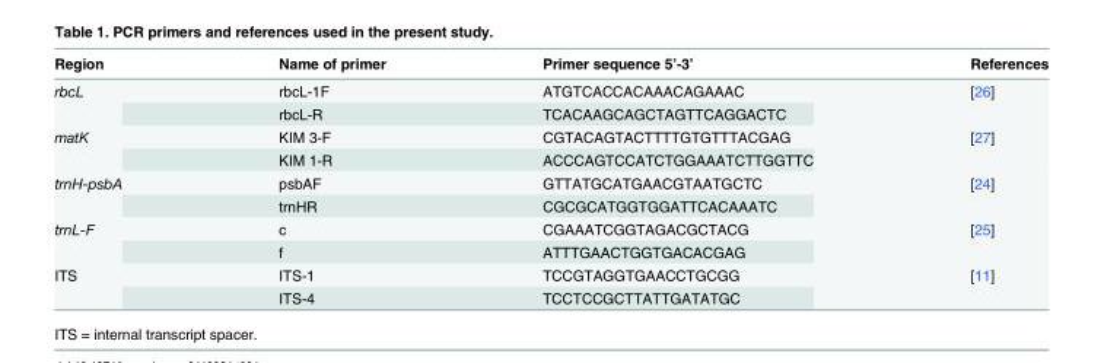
<table><thead><tr><td>Region</td><td>Name of primer</td><td>Primer sequence 5’-3’</td><td>References</td></tr></thead><tbody><tr><td rowspan="2">rbcL</td><td>rbcL-1F</td><td>ATGTCACCACAAACAGAAAC</td><td rowspan="2">[26]</td></tr><tr><td>rbcL-R</td><td>TCACAAGCAGCTAGTTCAGGACTC</td></tr><tr><td rowspan="2">matK</td><td>KIM 3-F</td><td>CGTACAGTACTTTTGTGTTTACGAG</td><td rowspan="2">[27]</td></tr><tr><td>KIM 1-R</td><td>ACCCAGTCCATCTGGAAATCTTGGTTC</td></tr><tr><td rowspan="2">trnH-psbA</td><td>psbAF</td><td>GTTATGCATGAACGTAATGCTC</td><td rowspan="2">[24]</td></tr><tr><td>trnHR</td><td>CGCGCATGGTGGATTCACAAATC</td></tr><tr><td rowspan="2">trnL-F</td><td>c</td><td>CGAAATCGGTAGACGCTACG</td><td rowspan="2">[25]</td></tr><tr><td>f</td><td>ATTTGAACTGGTGACACGAG</td></tr><tr><td rowspan="2">ITS</td><td>ITS-1</td><td>TCCGTAGGTGAACCTGCGG</td><td rowspan="2">[11]</td></tr><tr><td>ITS-4</td><td>TCCTCCGCTTATTGATATGC</td></tr></tbody></table>